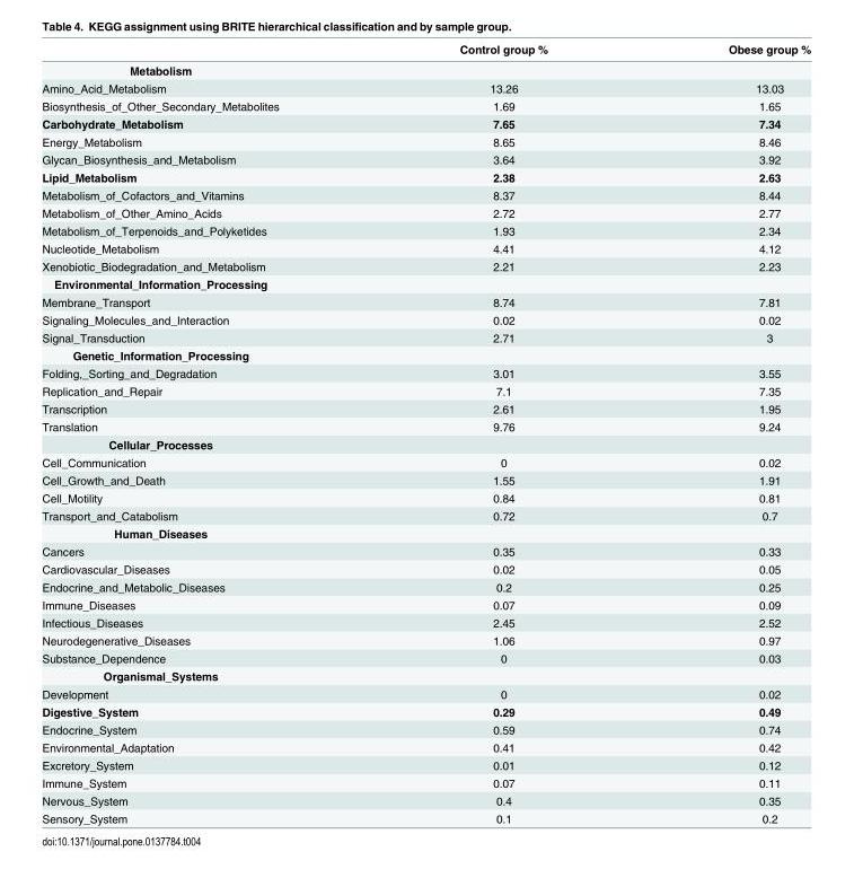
<table><thead><tr><td></td><td>Control group %</td><td>Obese group %</td></tr></thead><tbody><tr><td colspan="3">Metabolism</td></tr><tr><td>Amino_Acid_Metabolism</td><td>13.26</td><td>13.03</td></tr><tr><td>Biosynthesis_of_Other_Secondary_Metabolites</td><td>1.69</td><td>1.65</td></tr><tr><td>Carbohydrate_Metabolism</td><td>7.65</td><td>7.34</td></tr><tr><td>Energy_Metabolism</td><td>8.65</td><td>8.46</td></tr><tr><td>Glycan_Biosynthesis_and_Metabolism</td><td>3.64</td><td>3.92</td></tr><tr><td>Lipid_Metabolism</td><td>2.38</td><td>2.63</td></tr><tr><td>Metabolism_of_Cofactors_and_Vitamins</td><td>8.37</td><td>8.44</td></tr><tr><td>Metabolism_of_Other_Amino_Acids</td><td>2.72</td><td>2.77</td></tr><tr><td>Metabolism_of_Terpenoids_and_Polyketides</td><td>1.93</td><td>2.34</td></tr><tr><td>Nucleotide_Metabolism</td><td>4.41</td><td>4.12</td></tr><tr><td>Xenobiotic_Biodegradation_and_Metabolism</td><td>2.21</td><td>2.23</td></tr><tr><td colspan="3">Environmental_Information_Processing</td></tr><tr><td>Membrane_Transport</td><td>8.74</td><td>7.81</td></tr><tr><td>Signaling_Molecules_and_Interaction</td><td>0.02</td><td>0.02</td></tr><tr><td>Signal_Transduction</td><td>2.71</td><td>3</td></tr><tr><td colspan="3">Genetic_Information_Processing</td></tr><tr><td>Folding,_Sorting_and_Degradation</td><td>3.01</td><td>3.55</td></tr><tr><td>Replication_and_Repair</td><td>7.1</td><td>7.35</td></tr><tr><td>Transcription</td><td>2.61</td><td>1.95</td></tr><tr><td>Translation</td><td>9.76</td><td>9.24</td></tr><tr><td colspan="3">Cellular_Processes</td></tr><tr><td>Cell_Communication</td><td>0</td><td>0.02</td></tr><tr><td>Cell_Growth_and_Death</td><td>1.55</td><td>1.91</td></tr><tr><td>Cell_Motility</td><td>0.84</td><td>0.81</td></tr><tr><td>Transport_and_Catabolism</td><td>0.72</td><td>0.7</td></tr><tr><td colspan="3">Human_Diseases</td></tr><tr><td>Cancers</td><td>0.35</td><td>0.33</td></tr><tr><td>Cardiovascular_Diseases</td><td>0.02</td><td>0.05</td></tr><tr><td>Endocrine_and_Metabolic_Diseases</td><td>0.2</td><td>0.25</td></tr><tr><td>Immune_Diseases</td><td>0.07</td><td>0.09</td></tr><tr><td>Infectious_Diseases</td><td>2.45</td><td>2.52</td></tr><tr><td>Neurodegenerative_Diseases</td><td>1.06</td><td>0.97</td></tr><tr><td>Substance_Dependence</td><td>0</td><td>0.03</td></tr><tr><td colspan="3">Organismal_Systems</td></tr><tr><td>Development</td><td>0</td><td>0.02</td></tr><tr><td>Digestive_System</td><td>0.29</td><td>0.49</td></tr><tr><td>Endocrine_System</td><td>0.59</td><td>0.74</td></tr><tr><td>Environmental_Adaptation</td><td>0.41</td><td>0.42</td></tr><tr><td>Excretory_System</td><td>0.01</td><td>0.12</td></tr><tr><td>Immune_System</td><td>0.07</td><td>0.11</td></tr><tr><td>Nervous_System</td><td>0.4</td><td>0.35</td></tr><tr><td>Sensory_System</td><td>0.1</td><td>0.2</td></tr></tbody></table>